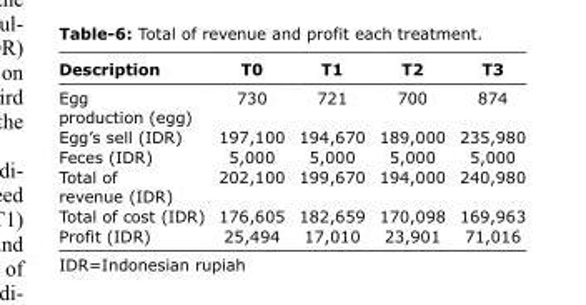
<table><thead><tr><td>Description</td><td>T0</td><td>T1</td><td>T2</td><td>T3</td></tr></thead><tbody><tr><td>Egg production (egg)</td><td>730</td><td>721</td><td>700</td><td>874</td></tr><tr><td>Egg’s sell (IDR)</td><td>197,100</td><td>194,670</td><td>189,000</td><td>235,980</td></tr><tr><td>Feces (IDR)</td><td>5,000</td><td>5,000</td><td>5,000</td><td>5,000</td></tr><tr><td>Total of revenue (IDR)</td><td>202,100</td><td>199,670</td><td>194,000</td><td>240,980</td></tr><tr><td>Total of cost (IDR)</td><td>176,605</td><td>182,659</td><td>170,098</td><td>169,963</td></tr><tr><td>Profit (IDR)</td><td>25,494</td><td>17,010</td><td>23,901</td><td>71,016</td></tr></tbody></table>